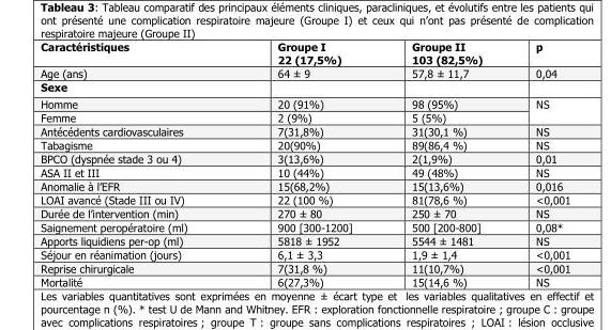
<table><thead><tr><td>Caractéristiques</td><td>Groupe I 22 (17,5%)</td><td>Groupe II 103 (82,5%)</td><td>p</td></tr></thead><tbody><tr><td>Age (ans)</td><td>64 ± 9</td><td>57,8 ± 11,7</td><td>0,04</td></tr><tr><td colspan="4">Sexe</td></tr><tr><td>Homme</td><td>20 (91%)</td><td>98 (95%)</td><td rowspan="2">NS</td></tr><tr><td>Femme</td><td>2 (9%)</td><td>5 (5%)</td></tr><tr><td>Antécédents cardiovasculaires</td><td>7(31,8%)</td><td>31(30,1 %)</td><td>NS</td></tr><tr><td>Tabagisme</td><td>20(90%)</td><td>89(86,4 %)</td><td>NS</td></tr><tr><td>BPCO (dyspnée stade 3 ou 4)</td><td>3(13,6%)</td><td>2(1,9%)</td><td>0,01</td></tr><tr><td>ASA II et III</td><td>10 (44%)</td><td>49 (48%)</td><td>NS</td></tr><tr><td>Anomalie à l’EFR</td><td>15(68,2%)</td><td>15(13,6%)</td><td>0,016</td></tr><tr><td>LOAI avancé (Stade III ou IV)</td><td>22 (100 %)</td><td>81(78,6 %)</td><td>&lt;0,001</td></tr><tr><td>Durée de l’intervention (min)</td><td>270 ± 80</td><td>250 ± 70</td><td>NS</td></tr><tr><td>Saignement peropératoire (ml)</td><td>900 [300-1200]</td><td>500 [200-800]</td><td>0,08*</td></tr><tr><td>Apports liquidiens per-op (ml)</td><td>5818 ± 1952</td><td>5544 ± 1481</td><td>NS</td></tr><tr><td>Séjour en réanimation (jours)</td><td>6,1 ± 3,3</td><td>1,9 ± 1,4</td><td>&lt;0,001</td></tr><tr><td>Reprise chirurgicale</td><td>7(31,8 %)</td><td>11(10,7%)</td><td>&lt;0,001</td></tr><tr><td>Mortalité</td><td>6(27,3%)</td><td>15(14,6 %)</td><td>NS</td></tr></tbody></table>